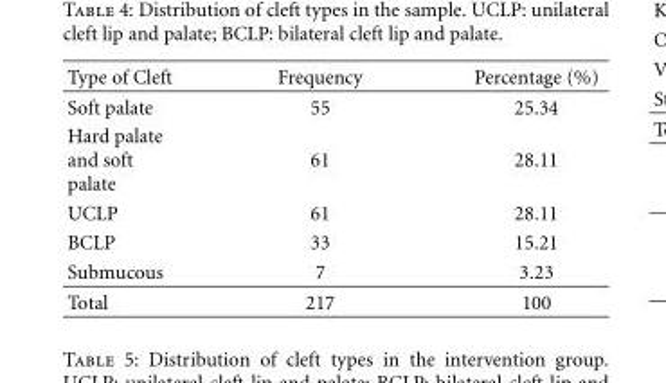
<table><thead><tr><td>Type of Cleft</td><td>Frequency</td><td>Percentage (%)</td></tr></thead><tbody><tr><td>Soft palate</td><td>55</td><td>25.34</td></tr><tr><td>Hard palate and soft palate</td><td>61</td><td>28.11</td></tr><tr><td>UCLP</td><td>61</td><td>28.11</td></tr><tr><td>BCLP</td><td>33</td><td>15.21</td></tr><tr><td>Submucous</td><td>7</td><td>3.23</td></tr><tr><td>Total</td><td>217</td><td>100</td></tr></tbody></table>